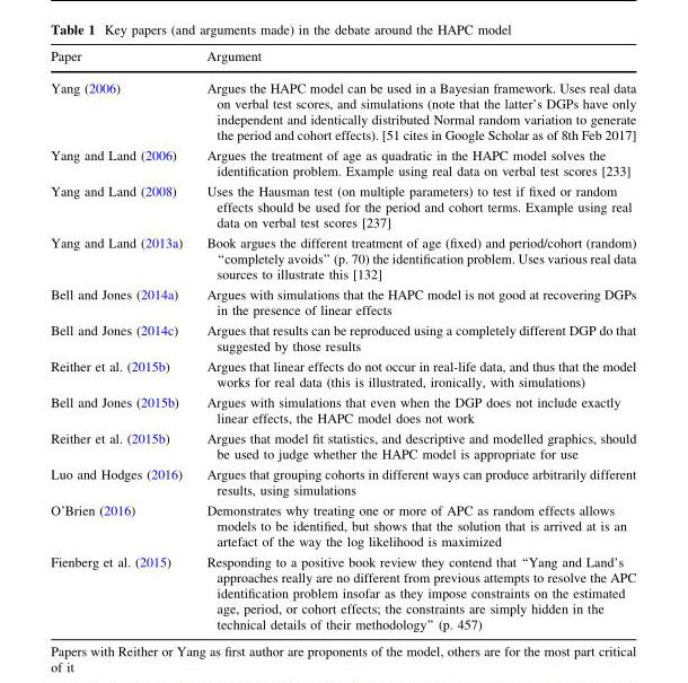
<table><thead><tr><td>Paper</td><td>Argument</td></tr></thead><tbody><tr><td>Yang (2006)</td><td>Argues the HAPC model can be used in a Bayesian framework. Uses real data on verbal test scores, and simulations (note that the latter’s DGPs have only independent and identically distributed Normal random variation to generate the period and cohort effects). [51 cites in Google Scholar as of 8th Feb 2017]</td></tr><tr><td>Yang and Land (2006)</td><td>Argues the treatment of age as quadratic in the HAPC model solves the identification problem. Example using real data on verbal test scores [233]</td></tr><tr><td>Yang and Land (2008)</td><td>Uses the Hausman test (on multiple parameters) to test if fixed or random effects should be used for the period and cohort terms. Example using real data on verbal test scores [237]</td></tr><tr><td>Yang and Land (2013a)</td><td>Book argues the different treatment of age (fixed) and period/cohort (random) ‘‘completely avoids’’ (p. 70) the identification problem. Uses various real data sources to illustrate this [132]</td></tr><tr><td>Bell and Jones (2014a)</td><td>Argues with simulations that the HAPC model is not good at recovering DGPs in the presence of linear effects</td></tr><tr><td>Bell and Jones (2014c)</td><td>Argues that results can be reproduced using a completely different DGP do that suggested by those results</td></tr><tr><td>Reither et al. (2015b)</td><td>Argues that linear effects do not occur in real-life data, and thus that the model works for real data (this is illustrated, ironically, with simulations)</td></tr><tr><td>Bell and Jones (2015b)</td><td>Argues with simulations that even when the DGP does not include exactly linear effects, the HAPC model does not work</td></tr><tr><td>Reither et al. (2015b)</td><td>Argues that model fit statistics, and descriptive and modelled graphics, should be used to judge whether the HAPC model is appropriate for use</td></tr><tr><td>Luo and Hodges (2016)</td><td>Argues that grouping cohorts in different ways can produce arbitrarily different results, using simulations</td></tr><tr><td>O’Brien (2016)</td><td>Demonstrates why treating one or more of APC as random effects allows models to be identified, but shows that the solution that is arrived at is an artefact of the way the log likelihood is maximized</td></tr><tr><td>Fienberg et al. (2015)</td><td>Responding to a positive book review they contend that ‘‘Yang and Land’s approaches really are no different from previous attempts to resolve the APC identification problem insofar as they impose constraints on the estimated age, period, or cohort effects; the constraints are simply hidden in the technical details of their methodology’’ (p. 457)</td></tr></tbody></table>